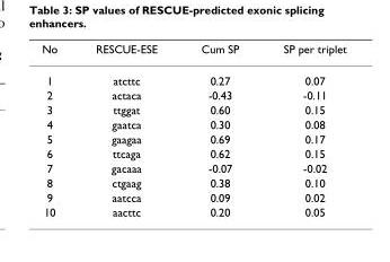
<table><thead><tr><td>No</td><td>RESCUE-ESE</td><td>Cum SP</td><td>SP per triplet</td></tr></thead><tbody><tr><td>1</td><td>atcttc</td><td>0.27</td><td>0.07</td></tr><tr><td>2</td><td>actaca</td><td>-0.43</td><td>-0.11</td></tr><tr><td>3</td><td>ttggat</td><td>0.60</td><td>0.15</td></tr><tr><td>4</td><td>gaatca</td><td>0.30</td><td>0.08</td></tr><tr><td>5</td><td>gaagaa</td><td>0.69</td><td>0.17</td></tr><tr><td>6</td><td>ttcaga</td><td>0.62</td><td>0.15</td></tr><tr><td>7</td><td>gacaaa</td><td>-0.07</td><td>-0.02</td></tr><tr><td>8</td><td>ctgaag</td><td>0.38</td><td>0.10</td></tr><tr><td>9</td><td>aatcca</td><td>0.09</td><td>0.02</td></tr><tr><td>10</td><td>aacttc</td><td>0.20</td><td>0.05</td></tr></tbody></table>